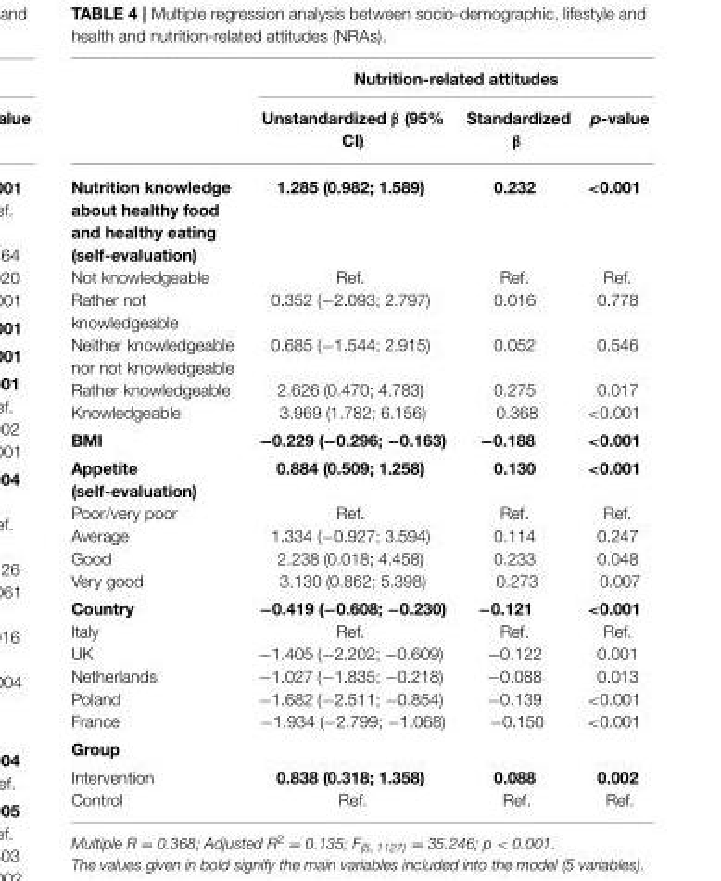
<table><thead><tr><td rowspan="2"></td><td colspan="3">Nutrition-related attitudes</td></tr><tr><td>Unstandardized β (95% CI)</td><td>Standardized β</td><td>p-value</td></tr></thead><tbody><tr><td>Nutrition knowledge about healthy food and healthy eating (self-evaluation) Not knowledgeable Rather not knowledgeable Neither knowledgeable nor not knowledgeable Rather knowledgeable Knowledgeable</td><td>1.285 (0.982; 1.589) Ref. 0.352 (−2.093; 2.797) 0.685 (−1.544; 2.915) 2.626 (0.470; 4.783) 3.969 (1.782; 6.156)</td><td>0.232 Ref. 0.016 0.052 0.275 0.368</td><td>&lt;0.001 Ref. 0.778 0.546 0.017 &lt;0.001</td></tr><tr><td>BMI</td><td>−0.229 (−0.296; −0.163)</td><td>−0.188</td><td>&lt;0.001</td></tr><tr><td>Appetite (self-evaluation) Poor/very poor Average Good Very good</td><td>0.884 (0.509; 1.258) Ref. 1.334 (−0.927; 3.594) 2.238 (0.018; 4.458) 3.130 (0.862; 5.398)</td><td>0.130 Ref. 0.114 0.233 0.273</td><td>&lt;0.001 Ref. 0.247 0.048 0.007</td></tr><tr><td>Country Italy UK Netherlands Poland France</td><td>−0.419 (−0.608; −0.230) Ref. −1.405 (−2.202; −0.609) −1.027 (−1.835; −0.218) −1.682 (−2.511; −0.854) −1.934 (−2.799; −1.068)</td><td>−0.121 Ref. −0.122 −0.088 −0.139 −0.150</td><td>&lt;0.001 Ref. 0.001 0.013 &lt;0.001 &lt;0.001</td></tr><tr><td colspan="4">Group</td></tr><tr><td>Intervention Control</td><td>0.838 (0.318; 1.358) Ref.</td><td>0.088 Ref.</td><td>0.002 Ref.</td></tr></tbody></table>